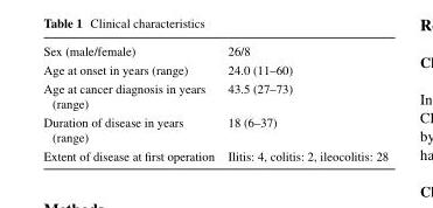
<table><tbody><tr><td>Sex (male/female)</td><td>26/8</td></tr><tr><td>Age at onset in years (range)</td><td>24.0 (11–60)</td></tr><tr><td>Age at cancer diagnosis in years (range)</td><td>43.5 (27–73)</td></tr><tr><td>Duration of disease in years (range)</td><td>18 (6–37)</td></tr><tr><td>Extent of disease at first operation</td><td>Ilitis: 4, colitis: 2, ileocolitis: 28</td></tr></tbody></table>